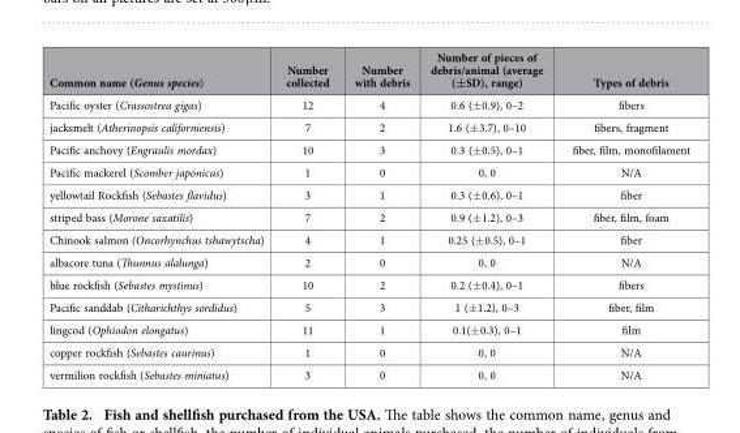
<table><thead><tr><td>Common name (Genus species)</td><td>Number collected</td><td>Number with debris</td><td>Number of pieces of debris/animal (average (±SD), range)</td><td>Types of debris</td></tr></thead><tbody><tr><td>Pacific oyster (Crassostrea gigas)</td><td>12</td><td>4</td><td>0.6 (± 0.9), 0–2</td><td>fibers</td></tr><tr><td>jacksmelt (Atherinopsis californiensis)</td><td>7</td><td>2</td><td>1.6 (± 3.7), 0–10</td><td>fibers, fragment</td></tr><tr><td>Pacific anchovy (Engraulis mordax)</td><td>10</td><td>3</td><td>0.3 (± 0.5), 0–1</td><td>fiber, film, monofilament</td></tr><tr><td>Pacific mackerel (Scomber japonicus)</td><td>1</td><td>0</td><td>0, 0</td><td>N/A</td></tr><tr><td>yellowtail Rockfish (Sebastes flavidus)</td><td>3</td><td>1</td><td>0.3 (± 0.6), 0–1</td><td>fiber</td></tr><tr><td>striped bass (Morone saxatilis)</td><td>7</td><td>2</td><td>0.9 (± 1.2), 0–3</td><td>fiber, film, foam</td></tr><tr><td>Chinook salmon (Oncorhynchus tshawytscha)</td><td>4</td><td>1</td><td>0.25 (± 0.5), 0–1</td><td>fiber</td></tr><tr><td>albacore tuna (Thunnus alalunga)</td><td>2</td><td>0</td><td>0, 0</td><td>N/A</td></tr><tr><td>blue rockfish (Sebastes mystinus)</td><td>10</td><td>2</td><td>0.2 (± 0.4), 0–1</td><td>fibers</td></tr><tr><td>Pacific sanddab (Citharichthys sordidus)</td><td>5</td><td>3</td><td>1 (± 1.2), 0–3</td><td>fiber, film</td></tr><tr><td>lingcod (Ophiodon elongatus)</td><td>11</td><td>1</td><td>0.1(± 0.3), 0–1</td><td>film</td></tr><tr><td>copper rockfish (Sebastes caurinus)</td><td>1</td><td>0</td><td>0, 0</td><td>N/A</td></tr><tr><td>vermilion rockfish (Sebastes miniatus)</td><td>3</td><td>0</td><td>0, 0</td><td>N/A</td></tr></tbody></table>